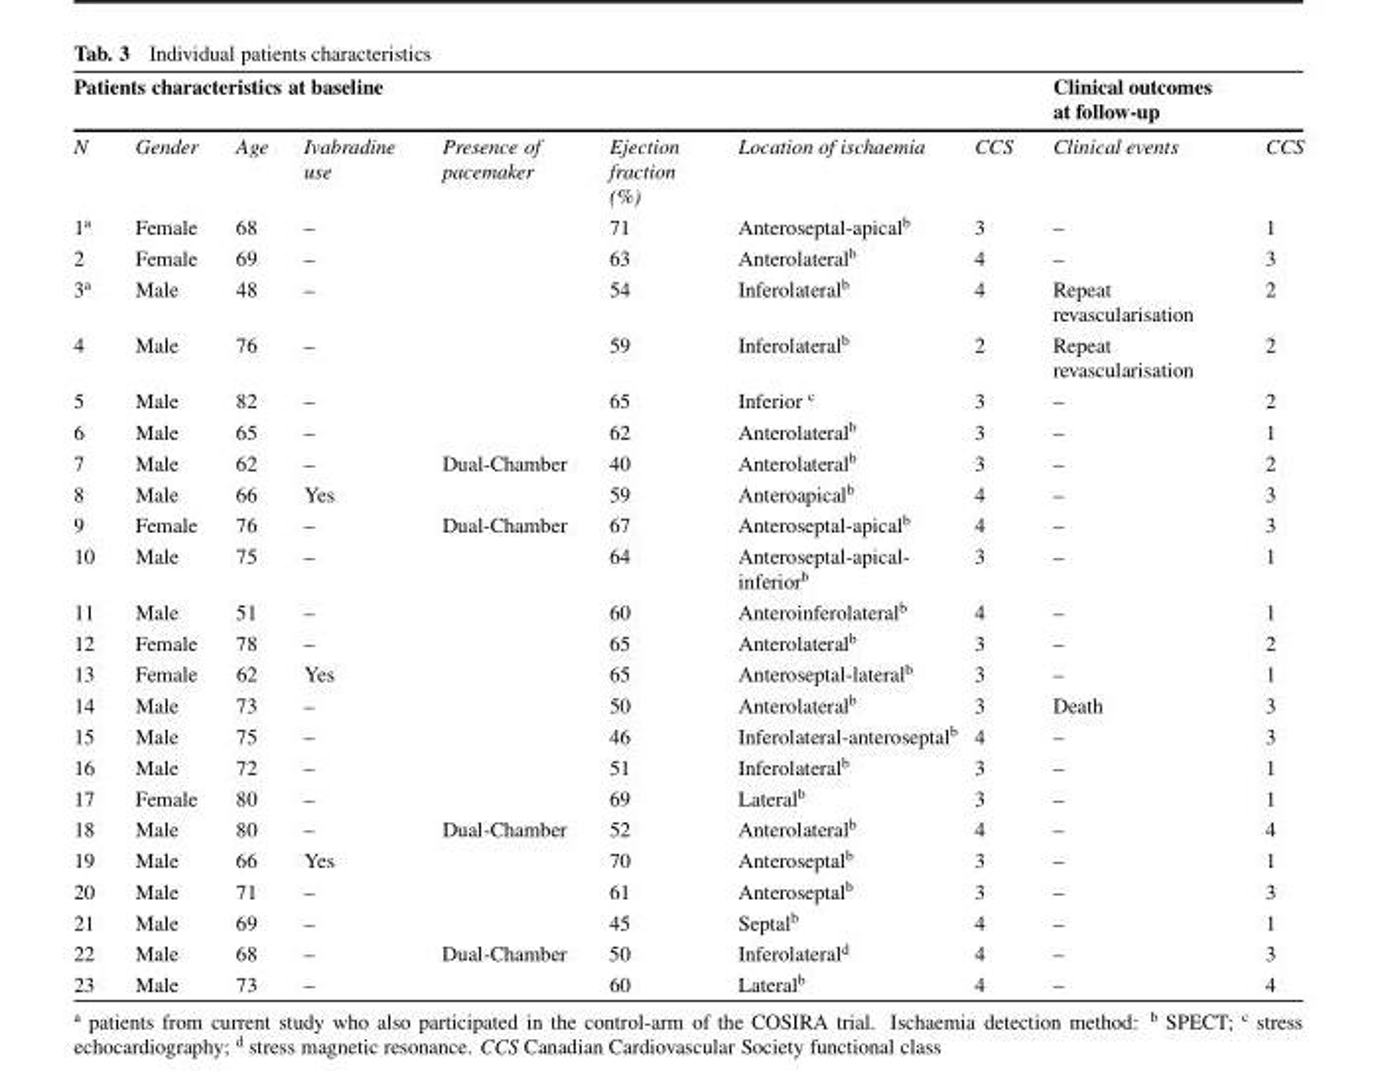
<table><thead><tr><td colspan="8">Patients characteristics at baseline</td><td colspan="2">Clinical outcomes at follow-up</td></tr><tr><td>N</td><td>Gender</td><td>Age</td><td>Ivabradine use</td><td>Presence of pacemaker</td><td>Ejection fraction (%)</td><td>Location of ischaemia</td><td>CCS</td><td>Clinical events</td><td>CCS</td></tr></thead><tbody><tr><td>1<sup>a</sup></td><td>Female</td><td>68</td><td>–</td><td></td><td>71</td><td>Anteroseptal-apical<sup>b</sup></td><td>3</td><td>–</td><td>1</td></tr><tr><td>2</td><td>Female</td><td>69</td><td>–</td><td></td><td>63</td><td>Anterolateral<sup>b</sup></td><td>4</td><td>–</td><td>3</td></tr><tr><td>3<sup>a</sup></td><td>Male</td><td>48</td><td>–</td><td></td><td>54</td><td>Inferolateral<sup>b</sup></td><td>4</td><td>Repeat revascularisation</td><td>2</td></tr><tr><td>4</td><td>Male</td><td>76</td><td>–</td><td></td><td>59</td><td>Inferolateral<sup>b</sup></td><td>2</td><td>Repeat revascularisation</td><td>2</td></tr><tr><td>5</td><td>Male</td><td>82</td><td>–</td><td></td><td>65</td><td>Inferior <sup>c</sup></td><td>3</td><td>–</td><td>2</td></tr><tr><td>6</td><td>Male</td><td>65</td><td>–</td><td></td><td>62</td><td>Anterolateral<sup>b</sup></td><td>3</td><td>–</td><td>1</td></tr><tr><td>7</td><td>Male</td><td>62</td><td>–</td><td>Dual-Chamber</td><td>40</td><td>Anterolateral<sup>b</sup></td><td>3</td><td>–</td><td>2</td></tr><tr><td>8</td><td>Male</td><td>66</td><td>Yes</td><td></td><td>59</td><td>Anteroapical<sup>b</sup></td><td>4</td><td>–</td><td>3</td></tr><tr><td>9</td><td>Female</td><td>76</td><td>–</td><td>Dual-Chamber</td><td>67</td><td>Anteroseptal-apical<sup>b</sup></td><td>4</td><td>–</td><td>3</td></tr><tr><td>10</td><td>Male</td><td>75</td><td>–</td><td></td><td>64</td><td>Anteroseptal-apical- inferior<sup>b</sup></td><td>3</td><td>–</td><td>1</td></tr><tr><td>11</td><td>Male</td><td>51</td><td>–</td><td></td><td>60</td><td>Anteroinferolateral<sup>b</sup></td><td>4</td><td>–</td><td>1</td></tr><tr><td>12</td><td>Female</td><td>78</td><td>–</td><td></td><td>65</td><td>Anterolateral<sup>b</sup></td><td>3</td><td>–</td><td>2</td></tr><tr><td>13</td><td>Female</td><td>62</td><td>Yes</td><td></td><td>65</td><td>Anteroseptal-lateral<sup>b</sup></td><td>3</td><td>–</td><td>1</td></tr><tr><td>14</td><td>Male</td><td>73</td><td>–</td><td></td><td>50</td><td>Anterolateral<sup>b</sup></td><td>3</td><td>Death</td><td>3</td></tr><tr><td>15</td><td>Male</td><td>75</td><td>–</td><td></td><td>46</td><td>Inferolateral-anteroseptal<sup>b</sup></td><td>4</td><td>–</td><td>3</td></tr><tr><td>16</td><td>Male</td><td>72</td><td>–</td><td></td><td>51</td><td>Inferolateral<sup>b</sup></td><td>3</td><td>–</td><td>1</td></tr><tr><td>17</td><td>Female</td><td>80</td><td>–</td><td></td><td>69</td><td>Lateral<sup>b</sup></td><td>3</td><td>–</td><td>1</td></tr><tr><td>18</td><td>Male</td><td>80</td><td>–</td><td>Dual-Chamber</td><td>52</td><td>Anterolateral<sup>b</sup></td><td>4</td><td>–</td><td>4</td></tr><tr><td>19</td><td>Male</td><td>66</td><td>Yes</td><td></td><td>70</td><td>Anteroseptal<sup>b</sup></td><td>3</td><td>–</td><td>1</td></tr><tr><td>20</td><td>Male</td><td>71</td><td>–</td><td></td><td>61</td><td>Anteroseptal<sup>b</sup></td><td>3</td><td>–</td><td>3</td></tr><tr><td>21</td><td>Male</td><td>69</td><td>–</td><td></td><td>45</td><td>Septal<sup>b</sup></td><td>4</td><td>–</td><td>1</td></tr><tr><td>22</td><td>Male</td><td>68</td><td>–</td><td>Dual-Chamber</td><td>50</td><td>Inferolateral<sup>d</sup></td><td>4</td><td>–</td><td>3</td></tr><tr><td>23</td><td>Male</td><td>73</td><td>–</td><td></td><td>60</td><td>Lateral<sup>b</sup></td><td>4</td><td>–</td><td>4</td></tr></tbody></table>